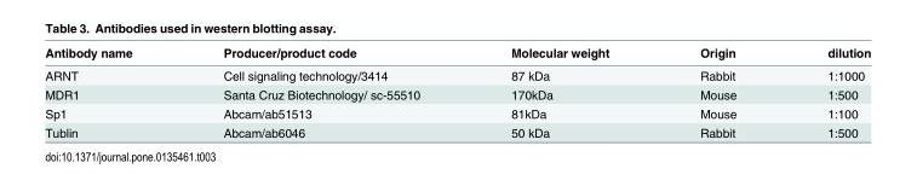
<table><thead><tr><td>Antibody name</td><td>Producer/product code</td><td>Molecular weight</td><td>Origin</td><td>dilution</td></tr></thead><tbody><tr><td>ARNT</td><td>Cell signaling technology/3414</td><td>87 kDa</td><td>Rabbit</td><td>1:1000</td></tr><tr><td>MDR1</td><td>Santa Cruz Biotechnology/ sc-55510</td><td>170kDa</td><td>Mouse</td><td>1:500</td></tr><tr><td>Sp1</td><td>Abcam/ab51513</td><td>81kDa</td><td>Mouse</td><td>1:100</td></tr><tr><td>Tublin</td><td>Abcam/ab6046</td><td>50 kDa</td><td>Rabbit</td><td>1:500</td></tr></tbody></table>